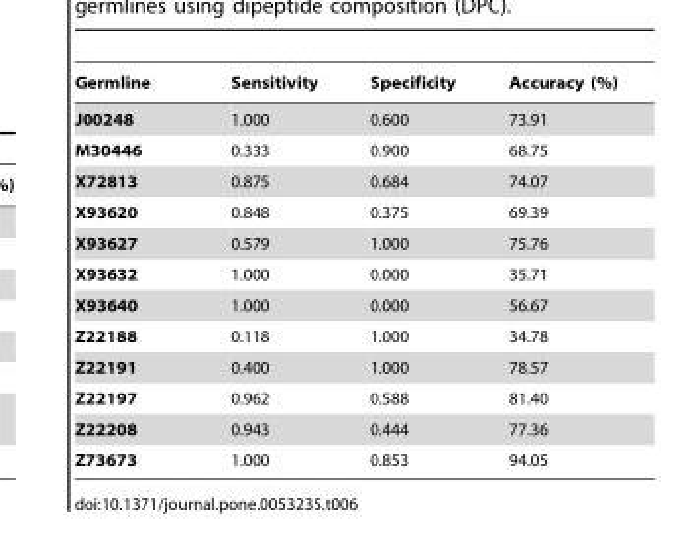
<table><thead><tr><td>Germline</td><td>Sensitivity</td><td>Specificity</td><td>Accuracy (%)</td></tr></thead><tbody><tr><td>J00248</td><td>1.000</td><td>0.600</td><td>73.91</td></tr><tr><td>M30446</td><td>0.333</td><td>0.900</td><td>68.75</td></tr><tr><td>X72813</td><td>0.875</td><td>0.684</td><td>74.07</td></tr><tr><td>X93620</td><td>0.848</td><td>0.375</td><td>69.39</td></tr><tr><td>X93627</td><td>0.579</td><td>1.000</td><td>75.76</td></tr><tr><td>X93632</td><td>1.000</td><td>0.000</td><td>35.71</td></tr><tr><td>X93640</td><td>1.000</td><td>0.000</td><td>56.67</td></tr><tr><td>Z22188</td><td>0.118</td><td>1.000</td><td>34.78</td></tr><tr><td>Z22191</td><td>0.400</td><td>1.000</td><td>78.57</td></tr><tr><td>Z22197</td><td>0.962</td><td>0.588</td><td>81.40</td></tr><tr><td>Z22208</td><td>0.943</td><td>0.444</td><td>77.36</td></tr><tr><td>Z73673</td><td>1.000</td><td>0.853</td><td>94.05</td></tr></tbody></table>